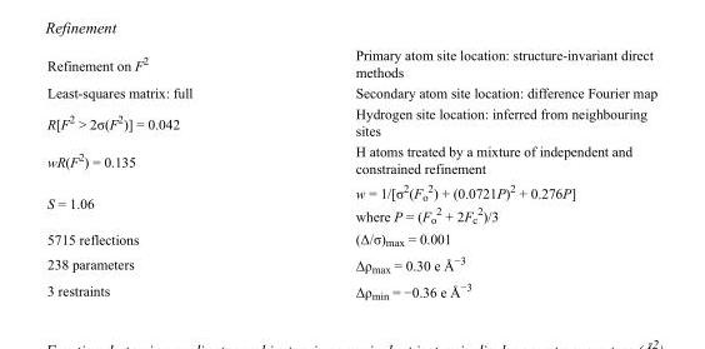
<table><tbody><tr><td>Refinement on F<sup>2</sup></td><td>Primary atom site location: structure-invariant direct methods</td></tr><tr><td>Least-squares matrix: full</td><td>Secondary atom site location: difference Fourier map</td></tr><tr><td>R[F<sup>2</sup> &gt; 2σ(F<sup>2</sup>)] = 0.042</td><td>Hydrogen site location: inferred from neighbouring sites</td></tr><tr><td>wR(F<sup>2</sup>) = 0.135</td><td>H atoms treated by a mixture of independent and constrained refinement</td></tr><tr><td>S = 1.06</td><td>w = 1/[σ<sup>2</sup>(F<sub>o</sub> <sup>2</sup>) + (0.0721P)<sup>2</sup> + 0.276P] where P = (F<sub>o</sub> <sup>2</sup> + 2F<sub>c</sub> <sup>2</sup>)/3</td></tr><tr><td>5715 reflections</td><td>(Δ/σ)<sub>max</sub> = 0.001</td></tr><tr><td>238 parameters</td><td>Δρ<sub>max</sub> = 0.30 e Å<sup>−3</sup></td></tr><tr><td>3 restraints</td><td>Δρ<sub>min</sub> = −0.36 e Å<sup>−3</sup></td></tr></tbody></table>